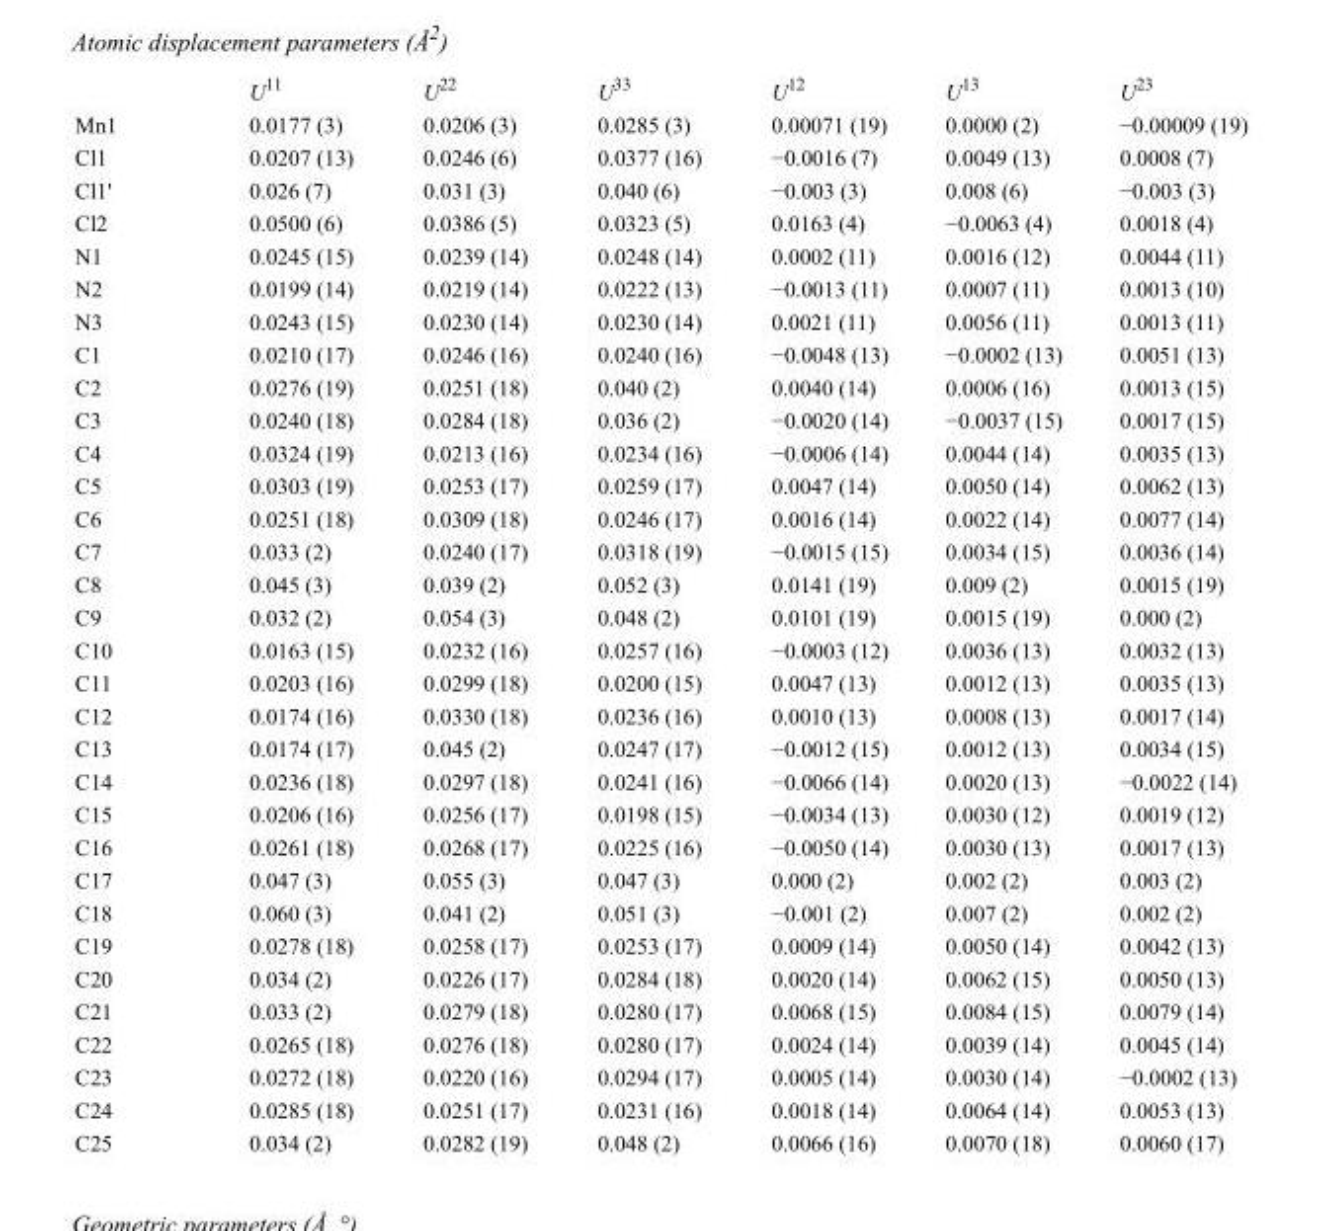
<table><thead><tr><td></td><td>U<sup>11</sup></td><td>U<sup>22</sup></td><td>U<sup>33</sup></td><td>U<sup>12</sup></td><td>U<sup>13</sup></td><td>U<sup>23</sup></td></tr></thead><tbody><tr><td>Mn1</td><td>0.0177 (3)</td><td>0.0206 (3)</td><td>0.0285 (3)</td><td>0.00071 (19)</td><td>0.0000 (2)</td><td>−0.00009 (19)</td></tr><tr><td>Cl1</td><td>0.0207 (13)</td><td>0.0246 (6)</td><td>0.0377 (16)</td><td>−0.0016 (7)</td><td>0.0049 (13)</td><td>0.0008 (7)</td></tr><tr><td>Cl1&#x27;</td><td>0.026 (7)</td><td>0.031 (3)</td><td>0.040 (6)</td><td>−0.003 (3)</td><td>0.008 (6)</td><td>−0.003 (3)</td></tr><tr><td>Cl2</td><td>0.0500 (6)</td><td>0.0386 (5)</td><td>0.0323 (5)</td><td>0.0163 (4)</td><td>−0.0063 (4)</td><td>0.0018 (4)</td></tr><tr><td>N1</td><td>0.0245 (15)</td><td>0.0239 (14)</td><td>0.0248 (14)</td><td>0.0002 (11)</td><td>0.0016 (12)</td><td>0.0044 (11)</td></tr><tr><td>N2</td><td>0.0199 (14)</td><td>0.0219 (14)</td><td>0.0222 (13)</td><td>−0.0013 (11)</td><td>0.0007 (11)</td><td>0.0013 (10)</td></tr><tr><td>N3</td><td>0.0243 (15)</td><td>0.0230 (14)</td><td>0.0230 (14)</td><td>0.0021 (11)</td><td>0.0056 (11)</td><td>0.0013 (11)</td></tr><tr><td>C1</td><td>0.0210 (17)</td><td>0.0246 (16)</td><td>0.0240 (16)</td><td>−0.0048 (13)</td><td>−0.0002 (13)</td><td>0.0051 (13)</td></tr><tr><td>C2</td><td>0.0276 (19)</td><td>0.0251 (18)</td><td>0.040 (2)</td><td>0.0040 (14)</td><td>0.0006 (16)</td><td>0.0013 (15)</td></tr><tr><td>C3</td><td>0.0240 (18)</td><td>0.0284 (18)</td><td>0.036 (2)</td><td>−0.0020 (14)</td><td>−0.0037 (15)</td><td>0.0017 (15)</td></tr><tr><td>C4</td><td>0.0324 (19)</td><td>0.0213 (16)</td><td>0.0234 (16)</td><td>−0.0006 (14)</td><td>0.0044 (14)</td><td>0.0035 (13)</td></tr><tr><td>C5</td><td>0.0303 (19)</td><td>0.0253 (17)</td><td>0.0259 (17)</td><td>0.0047 (14)</td><td>0.0050 (14)</td><td>0.0062 (13)</td></tr><tr><td>C6</td><td>0.0251 (18)</td><td>0.0309 (18)</td><td>0.0246 (17)</td><td>0.0016 (14)</td><td>0.0022 (14)</td><td>0.0077 (14)</td></tr><tr><td>C7</td><td>0.033 (2)</td><td>0.0240 (17)</td><td>0.0318 (19)</td><td>−0.0015 (15)</td><td>0.0034 (15)</td><td>0.0036 (14)</td></tr><tr><td>C8</td><td>0.045 (3)</td><td>0.039 (2)</td><td>0.052 (3)</td><td>0.0141 (19)</td><td>0.009 (2)</td><td>0.0015 (19)</td></tr><tr><td>C9</td><td>0.032 (2)</td><td>0.054 (3)</td><td>0.048 (2)</td><td>0.0101 (19)</td><td>0.0015 (19)</td><td>0.000 (2)</td></tr><tr><td>C10</td><td>0.0163 (15)</td><td>0.0232 (16)</td><td>0.0257 (16)</td><td>−0.0003 (12)</td><td>0.0036 (13)</td><td>0.0032 (13)</td></tr><tr><td>C11</td><td>0.0203 (16)</td><td>0.0299 (18)</td><td>0.0200 (15)</td><td>0.0047 (13)</td><td>0.0012 (13)</td><td>0.0035 (13)</td></tr><tr><td>C12</td><td>0.0174 (16)</td><td>0.0330 (18)</td><td>0.0236 (16)</td><td>0.0010 (13)</td><td>0.0008 (13)</td><td>0.0017 (14)</td></tr><tr><td>C13</td><td>0.0174 (17)</td><td>0.045 (2)</td><td>0.0247 (17)</td><td>−0.0012 (15)</td><td>0.0012 (13)</td><td>0.0034 (15)</td></tr><tr><td>C14</td><td>0.0236 (18)</td><td>0.0297 (18)</td><td>0.0241 (16)</td><td>−0.0066 (14)</td><td>0.0020 (13)</td><td>−0.0022 (14)</td></tr><tr><td>C15</td><td>0.0206 (16)</td><td>0.0256 (17)</td><td>0.0198 (15)</td><td>−0.0034 (13)</td><td>0.0030 (12)</td><td>0.0019 (12)</td></tr><tr><td>C16</td><td>0.0261 (18)</td><td>0.0268 (17)</td><td>0.0225 (16)</td><td>−0.0050 (14)</td><td>0.0030 (13)</td><td>0.0017 (13)</td></tr><tr><td>C17</td><td>0.047 (3)</td><td>0.055 (3)</td><td>0.047 (3)</td><td>0.000 (2)</td><td>0.002 (2)</td><td>0.003 (2)</td></tr><tr><td>C18</td><td>0.060 (3)</td><td>0.041 (2)</td><td>0.051 (3)</td><td>−0.001 (2)</td><td>0.007 (2)</td><td>0.002 (2)</td></tr><tr><td>C19</td><td>0.0278 (18)</td><td>0.0258 (17)</td><td>0.0253 (17)</td><td>0.0009 (14)</td><td>0.0050 (14)</td><td>0.0042 (13)</td></tr><tr><td>C20</td><td>0.034 (2)</td><td>0.0226 (17)</td><td>0.0284 (18)</td><td>0.0020 (14)</td><td>0.0062 (15)</td><td>0.0050 (13)</td></tr><tr><td>C21</td><td>0.033 (2)</td><td>0.0279 (18)</td><td>0.0280 (17)</td><td>0.0068 (15)</td><td>0.0084 (15)</td><td>0.0079 (14)</td></tr><tr><td>C22</td><td>0.0265 (18)</td><td>0.0276 (18)</td><td>0.0280 (17)</td><td>0.0024 (14)</td><td>0.0039 (14)</td><td>0.0045 (14)</td></tr><tr><td>C23</td><td>0.0272 (18)</td><td>0.0220 (16)</td><td>0.0294 (17)</td><td>0.0005 (14)</td><td>0.0030 (14)</td><td>−0.0002 (13)</td></tr><tr><td>C24</td><td>0.0285 (18)</td><td>0.0251 (17)</td><td>0.0231 (16)</td><td>0.0018 (14)</td><td>0.0064 (14)</td><td>0.0053 (13)</td></tr><tr><td>C25</td><td>0.034 (2)</td><td>0.0282 (19)</td><td>0.048 (2)</td><td>0.0066 (16)</td><td>0.0070 (18)</td><td>0.0060 (17)</td></tr></tbody></table>